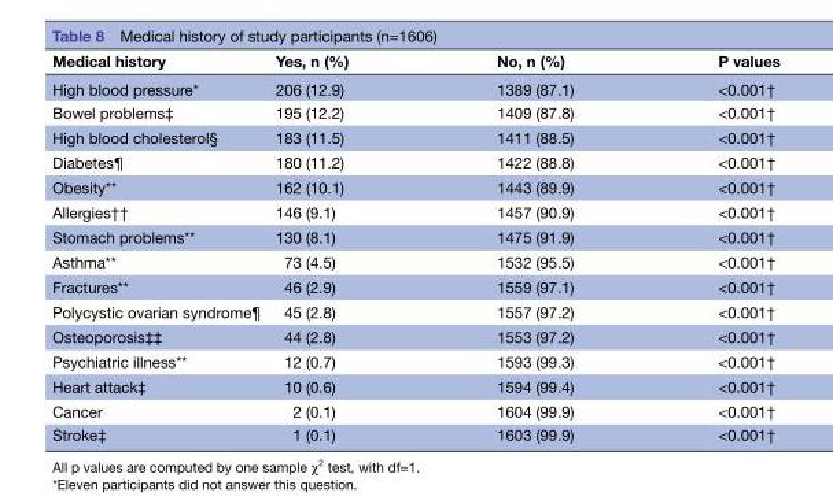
<table><thead><tr><td>Medical history</td><td>Yes, n (%)</td><td>No, n (%)</td><td>P values</td></tr></thead><tbody><tr><td>High blood pressure*</td><td>206 (12.9)</td><td>1389 (87.1)</td><td>&lt;0.001†</td></tr><tr><td>Bowel problems‡</td><td>195 (12.2)</td><td>1409 (87.8)</td><td>&lt;0.001†</td></tr><tr><td>High blood cholesterol§</td><td>183 (11.5)</td><td>1411 (88.5)</td><td>&lt;0.001†</td></tr><tr><td>Diabetes¶</td><td>180 (11.2)</td><td>1422 (88.8)</td><td>&lt;0.001†</td></tr><tr><td>Obesity**</td><td>162 (10.1)</td><td>1443 (89.9)</td><td>&lt;0.001†</td></tr><tr><td>Allergies††</td><td>146 (9.1)</td><td>1457 (90.9)</td><td>&lt;0.001†</td></tr><tr><td>Stomach problems**</td><td>130 (8.1)</td><td>1475 (91.9)</td><td>&lt;0.001†</td></tr><tr><td>Asthma**</td><td>73 (4.5)</td><td>1532 (95.5)</td><td>&lt;0.001†</td></tr><tr><td>Fractures**</td><td>46 (2.9)</td><td>1559 (97.1)</td><td>&lt;0.001†</td></tr><tr><td>Polycystic ovarian syndrome¶</td><td>45 (2.8)</td><td>1557 (97.2)</td><td>&lt;0.001†</td></tr><tr><td>Osteoporosis‡‡</td><td>44 (2.8)</td><td>1553 (97.2)</td><td>&lt;0.001†</td></tr><tr><td>Psychiatric illness**</td><td>12 (0.7)</td><td>1593 (99.3)</td><td>&lt;0.001†</td></tr><tr><td>Heart attack‡</td><td>10 (0.6)</td><td>1594 (99.4)</td><td>&lt;0.001†</td></tr><tr><td>Cancer</td><td>2 (0.1)</td><td>1604 (99.9)</td><td>&lt;0.001†</td></tr><tr><td>Stroke‡</td><td>1 (0.1)</td><td>1603 (99.9)</td><td>&lt;0.001†</td></tr></tbody></table>